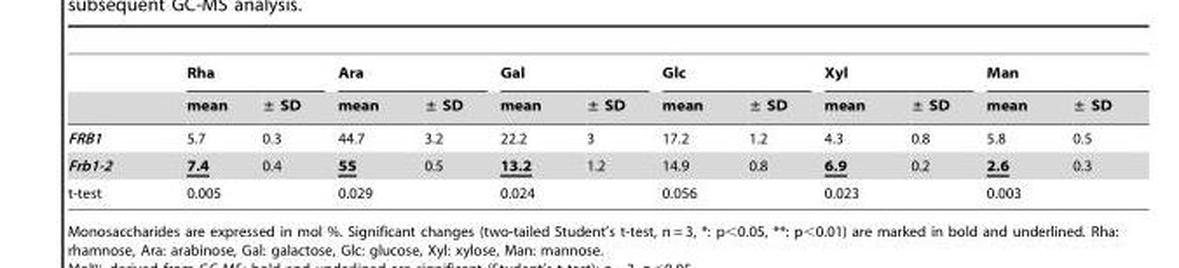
<table><thead><tr><td rowspan="2"></td><td colspan="2">Rha</td><td colspan="2">Ara</td><td colspan="2">Gal</td><td colspan="2">Glc</td><td colspan="2">Xyl</td><td colspan="2">Man</td></tr><tr><td>mean</td><td>± SD</td><td>mean</td><td>± SD</td><td>mean</td><td>± SD</td><td>mean</td><td>± SD</td><td>mean</td><td>± SD</td><td>mean</td><td>± SD</td></tr></thead><tbody><tr><td>FRB1</td><td>5.7</td><td>0.3</td><td>44.7</td><td>3.2</td><td>22.2</td><td>3</td><td>17.2</td><td>1.2</td><td>4.3</td><td>0.8</td><td>5.8</td><td>0.5</td></tr><tr><td>Frb1-2</td><td>7.4</td><td>0.4</td><td>55</td><td>0.5</td><td>13.2</td><td>1.2</td><td>14.9</td><td>0.8</td><td>6.9</td><td>0.2</td><td>2.6</td><td>0.3</td></tr><tr><td>t-test</td><td colspan="2">0.005</td><td colspan="2">0.029</td><td colspan="2">0.024</td><td colspan="2">0.056</td><td colspan="2">0.023</td><td colspan="2">0.003</td></tr></tbody></table>